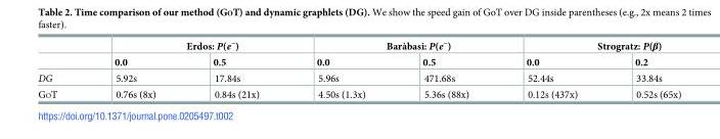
<table><thead><tr><td rowspan="2"></td><td colspan="2">Erdos: P(e<sup>−</sup>)</td><td colspan="2">Baràbasi: P(e<sup>−</sup>)</td><td colspan="2">Strogratz: P(β)</td></tr><tr><td>0.0</td><td>0.5</td><td>0.0</td><td>0.5</td><td>0.0</td><td>0.2</td></tr></thead><tbody><tr><td>DG</td><td>5.92s</td><td>17.84s</td><td>5.96s</td><td>471.68s</td><td>52.44s</td><td>33.84s</td></tr><tr><td>GOT</td><td>0.76s (8x)</td><td>0.84s (21x)</td><td>4.50s (1.3x)</td><td>5.36s (88x)</td><td>0.12s (437x)</td><td>0.52s (65x)</td></tr></tbody></table>